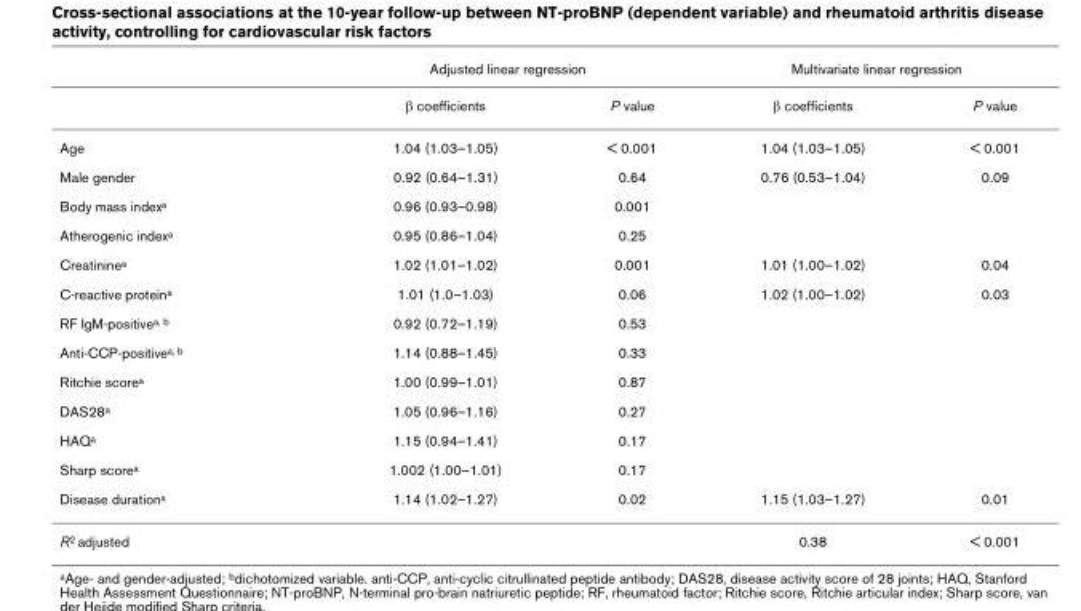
<table><thead><tr><td rowspan="2"></td><td colspan="2">Adjusted linear regression</td><td colspan="2">Multivariate linear regression</td></tr><tr><td>β coefficients</td><td>P value</td><td>β coefficients</td><td>P value</td></tr></thead><tbody><tr><td>Age</td><td>1.04 (1.03–1.05)</td><td>&lt; 0.001</td><td>1.04 (1.03–1.05)</td><td>&lt; 0.001</td></tr><tr><td>Male gender</td><td>0.92 (0.64–1.31)</td><td>0.64</td><td>0.76 (0.53–1.04)</td><td>0.09</td></tr><tr><td>Body mass index<sup>a</sup></td><td>0.96 (0.93–0.98)</td><td>0.001</td><td></td><td></td></tr><tr><td>Atherogenic index<sup>a</sup></td><td>0.95 (0.86–1.04)</td><td>0.25</td><td></td><td></td></tr><tr><td>Creatinine<sup>a</sup></td><td>1.02 (1.01–1.02)</td><td>0.001</td><td>1.01 (1.00–1.02)</td><td>0.04</td></tr><tr><td>C-reactive protein<sup>a</sup></td><td>1.01 (1.0–1.03)</td><td>0.06</td><td>1.02 (1.00–1.02)</td><td>0.03</td></tr><tr><td>RF IgM-positive<sup>a, b</sup></td><td>0.92 (0.72–1.19)</td><td>0.53</td><td></td><td></td></tr><tr><td>Anti-CCP-positive<sup>a, b</sup></td><td>1.14 (0.88–1.45)</td><td>0.33</td><td></td><td></td></tr><tr><td>Ritchie score<sup>a</sup></td><td>1.00 (0.99–1.01)</td><td>0.87</td><td></td><td></td></tr><tr><td>DAS28<sup>a</sup></td><td>1.05 (0.96–1.16)</td><td>0.27</td><td></td><td></td></tr><tr><td>HAQ<sup>a</sup></td><td>1.15 (0.94–1.41)</td><td>0.17</td><td></td><td></td></tr><tr><td>Sharp score<sup>a</sup></td><td>1.002 (1.00–1.01)</td><td>0.17</td><td></td><td></td></tr><tr><td>Disease duration<sup>a</sup></td><td>1.14 (1.02–1.27)</td><td>0.02</td><td>1.15 (1.03–1.27)</td><td>0.01</td></tr><tr><td>R<sup>2</sup> adjusted</td><td></td><td></td><td>0.38</td><td>&lt; 0.001</td></tr></tbody></table>